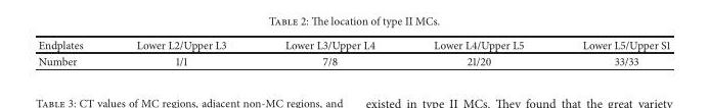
<table><thead><tr><td>Endplates</td><td>Lower L2/Upper L3</td><td>Lower L3/Upper L4</td><td>Lower L4/Upper L5</td><td>Lower L5/Upper S1</td></tr></thead><tbody><tr><td>Number</td><td>1/1</td><td>7/8</td><td>21/20</td><td>33/33</td></tr></tbody></table>